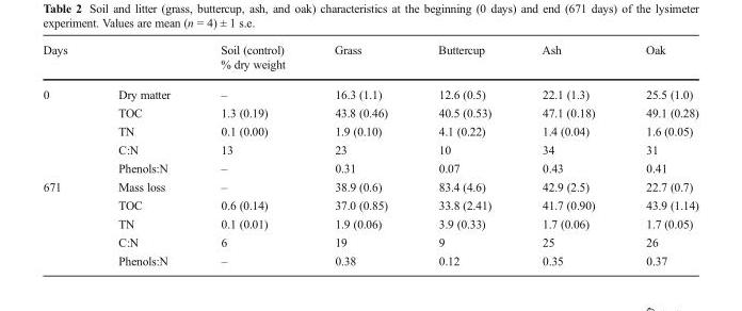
<table><thead><tr><td rowspan="2">Days</td><td rowspan="2"></td><td>Soil (control)</td><td>Grass</td><td>Buttercup</td><td>Ash</td><td>Oak</td></tr><tr><td colspan="5">% dry weight</td></tr></thead><tbody><tr><td rowspan="5">0</td><td>Dry matter</td><td>–</td><td>16.3 (1.1)</td><td>12.6 (0.5)</td><td>22.1 (1.3)</td><td>25.5 (1.0)</td></tr><tr><td>TOC</td><td>1.3 (0.19)</td><td>43.8 (0.46)</td><td>40.5 (0.53)</td><td>47.1 (0.18)</td><td>49.1 (0.28)</td></tr><tr><td>TN</td><td>0.1 (0.00)</td><td>1.9 (0.10)</td><td>4.1 (0.22)</td><td>1.4 (0.04)</td><td>1.6 (0.05)</td></tr><tr><td>C:N</td><td>13</td><td>23</td><td>10</td><td>34</td><td>31</td></tr><tr><td>Phenols:N</td><td>–</td><td>0.31</td><td>0.07</td><td>0.43</td><td>0.41</td></tr><tr><td rowspan="5">671</td><td>Mass loss</td><td>–</td><td>38.9 (0.6)</td><td>83.4 (4.6)</td><td>42.9 (2.5)</td><td>22.7 (0.7)</td></tr><tr><td>TOC</td><td>0.6 (0.14)</td><td>37.0 (0.85)</td><td>33.8 (2.41)</td><td>41.7 (0.90)</td><td>43.9 (1.14)</td></tr><tr><td>TN</td><td>0.1 (0.01)</td><td>1.9 (0.06)</td><td>3.9 (0.33)</td><td>1.7 (0.06)</td><td>1.7 (0.05)</td></tr><tr><td>C:N</td><td>6</td><td>19</td><td>9</td><td>25</td><td>26</td></tr><tr><td>Phenols:N</td><td>–</td><td>0.38</td><td>0.12</td><td>0.35</td><td>0.37</td></tr></tbody></table>